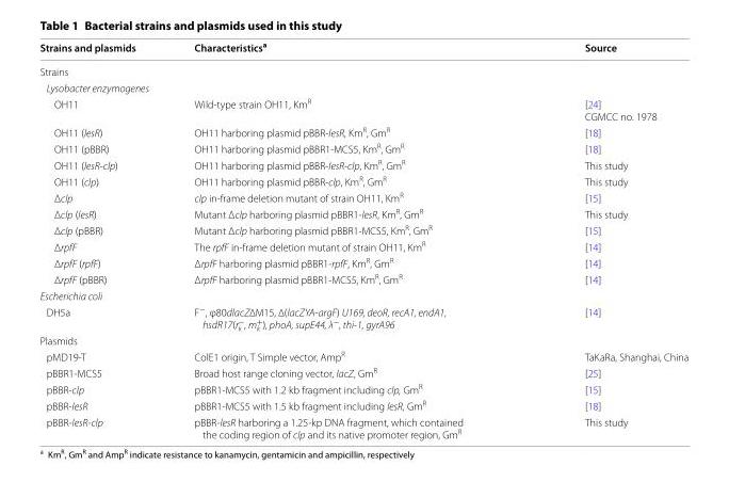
<table><thead><tr><td>Strains and plasmids</td><td>Characteristics<sup>a</sup></td><td>Source</td></tr></thead><tbody><tr><td colspan="3">Strains</td></tr><tr><td colspan="3">Lysobacter enzymogenes</td></tr><tr><td>OH11</td><td>Wild-type strain OH11, Km<sup>R</sup></td><td>[24] CGMCC no. 1978</td></tr><tr><td>OH11 (lesR)</td><td>OH11 harboring plasmid pBBR-lesR, Km<sup>R</sup>, Gm<sup>R</sup></td><td>[18]</td></tr><tr><td>OH11 (pBBR)</td><td>OH11 harboring plasmid pBBR1-MCS5, Km<sup>R</sup>, Gm<sup>R</sup></td><td>[18]</td></tr><tr><td>OH11 (lesR-clp)</td><td>OH11 harboring plasmid pBBR-lesR-clp, Km<sup>R</sup>, Gm<sup>R</sup></td><td>This study</td></tr><tr><td>OH11 (clp)</td><td>OH11 harboring plasmid pBBR-clp, Km<sup>R</sup>, Gm<sup>R</sup></td><td>This study</td></tr><tr><td>Δclp</td><td>clp in-frame deletion mutant of strain OH11, Km<sup>R</sup></td><td>[15]</td></tr><tr><td>Δclp (lesR)</td><td>Mutant Δclp harboring plasmid pBBR1-lesR, Km<sup>R</sup>, Gm<sup>R</sup></td><td>This study</td></tr><tr><td>Δclp (pBBR)</td><td>Mutant Δclp harboring plasmid pBBR1-MCS5, Km<sup>R</sup>, Gm<sup>R</sup></td><td>[15]</td></tr><tr><td>ΔrpfF</td><td>The rpfF in-frame deletion mutant of strain OH11, Km<sup>R</sup></td><td>[14]</td></tr><tr><td>ΔrpfF (rpfF)</td><td>ΔrpfF harboring plasmid pBBR1-rpfF, Km<sup>R</sup>, Gm<sup>R</sup></td><td>[14]</td></tr><tr><td>ΔrpfF (pBBR)</td><td>ΔrpfF harboring plasmid pBBR1-MCS5, Km<sup>R</sup>, Gm<sup>R</sup></td><td>[14]</td></tr><tr><td colspan="3">Escherichia coli</td></tr><tr><td>DH5a</td><td>F<sup>−</sup>, φ80dlacZ∆M15, ∆(lacZYA-argF) U169, deoR, recA1, endA1, hsdR17(r<sub>k</sub> <sup>−</sup>, m<sub>k</sub> <sup>+</sup>), phoA, supE44, λ<sup>−</sup>, thi-1, gyrA96</td><td>[14]</td></tr><tr><td colspan="3">Plasmids</td></tr><tr><td>pMD19-T</td><td>ColE1 origin, T Simple vector, Amp<sup>R</sup></td><td>TaKaRa, Shanghai, China</td></tr><tr><td>pBBR1-MCS5</td><td>Broad host range cloning vector, lacZ, Gm<sup>R</sup></td><td>[25]</td></tr><tr><td>pBBR-clp</td><td>pBBR1-MCS5 with 1.2 kb fragment including clp, Gm<sup>R</sup></td><td>[15]</td></tr><tr><td>pBBR-lesR</td><td>pBBR1-MCS5 with 1.5 kb fragment including lesR, Gm<sup>R</sup></td><td>[18]</td></tr><tr><td>pBBR-lesR-clp</td><td>pBBR-lesR harboring a 1.25-kp DNA fragment, which contained the coding region of clp and its native promoter region, Gm<sup>R</sup></td><td>This study</td></tr></tbody></table>